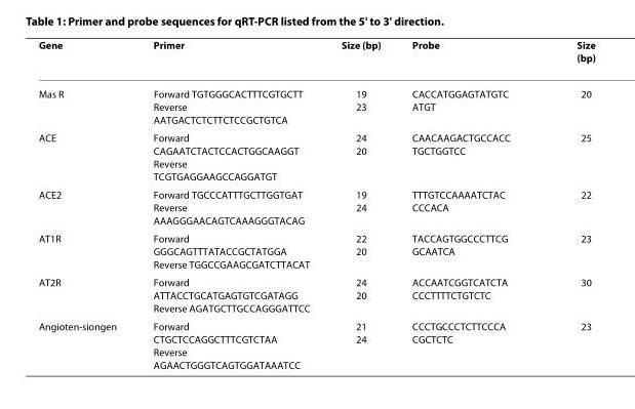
<table><thead><tr><td>Gene</td><td>Primer</td><td>Size (bp)</td><td>Probe</td><td>Size (bp)</td></tr></thead><tbody><tr><td>Mas R</td><td>Forward TGTGGGCACTTTCGTGCTT Reverse AATGACTCTCTTCTCCGCTGTCA</td><td>19 23</td><td>CACCATGGAGTATGTC ATGT</td><td>20</td></tr><tr><td>ACE</td><td>Forward CAGAATCTACTCCACTGGCAAGGT Reverse TCGTGAGGAAGCCAGGATGT</td><td>24 20</td><td>CAACAAGACTGCCACC TGCTGGTCC</td><td>25</td></tr><tr><td>ACE2</td><td>Forward TGCCCATTTGCTTGGTGAT Reverse AAAGGGAACAGTCAAAGGGTACAG</td><td>19 24</td><td>TTTGTCCAAAATCTAC CCCACA</td><td>22</td></tr><tr><td>AT1R</td><td>Forward GGGCAGTTTATACCGCTATGGA Reverse TGGCCGAAGCGATCTTACAT</td><td>22 20</td><td>TACCAGTGGCCCTTCG GCAATCA</td><td>23</td></tr><tr><td>AT2R</td><td>Forward ATTACCTGCATGAGTGTCGATAGG Reverse AGATGCTTGCCAGGGATTCC</td><td>24 20</td><td>ACCAATCGGTCATCTA CCCTTTTCTGTCTC</td><td>30</td></tr><tr><td>Angioten-siongen</td><td>Forward CTGCTCCAGGCTTTCGTCTAA Reverse AGAACTGGGTCAGTGGATAAATCC</td><td>21 24</td><td>CCCTGCCCTCTTCCCA CGCTCTC</td><td>23</td></tr></tbody></table>